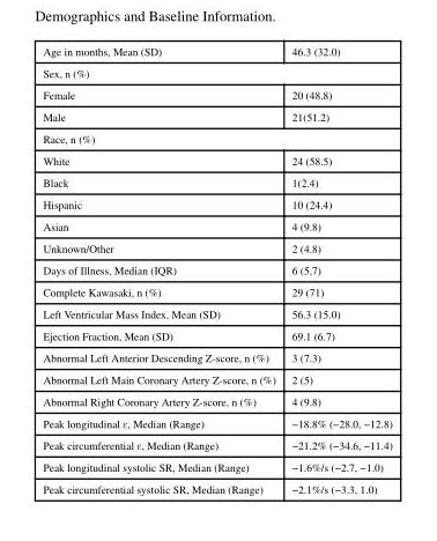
<table><tbody><tr><td>Age in months, Mean (SD)</td><td>46.3 (32.0)</td></tr><tr><td colspan="2">Sex, n (%)</td></tr><tr><td>Female</td><td>20 (48.8)</td></tr><tr><td>Male</td><td>21(51.2)</td></tr><tr><td colspan="2">Race, n (%)</td></tr><tr><td>White</td><td>24 (58.5)</td></tr><tr><td>Black</td><td>1(2.4)</td></tr><tr><td>Hispanic</td><td>10 (24.4)</td></tr><tr><td>Asian</td><td>4 (9.8)</td></tr><tr><td>Unknown/Other</td><td>2 (4.8)</td></tr><tr><td>Days of Illness, Median (IQR)</td><td>6 (5,7)</td></tr><tr><td>Complete Kawasaki, n (%)</td><td>29 (71)</td></tr><tr><td>Left Ventricular Mass Index, Mean (SD)</td><td>56.3 (15.0)</td></tr><tr><td>Ejection Fraction, Mean (SD)</td><td>69.1 (6.7)</td></tr><tr><td>Abnormal Left Anterior Descending Z-score, n (%)</td><td>3 (7.3)</td></tr><tr><td>Abnormal Left Main Coronary Artery Z-score, n (%)</td><td>2 (5)</td></tr><tr><td>Abnormal Right Coronary Artery Z-score, n (%)</td><td>4 (9.8)</td></tr><tr><td>Peak longitudinal ε, Median (Range)</td><td>−18.8% (−28.0, −12.8)</td></tr><tr><td>Peak circumferential ε, Median (Range)</td><td>−21.2% (−34.6, −11.4)</td></tr><tr><td>Peak longitudinal systolic SR, Median (Range)</td><td>−1.6%/s (−2.7, −1.0)</td></tr><tr><td>Peak circumferential systolic SR, Median (Range)</td><td>−2.1%/s (−3.3, 1.0)</td></tr></tbody></table>